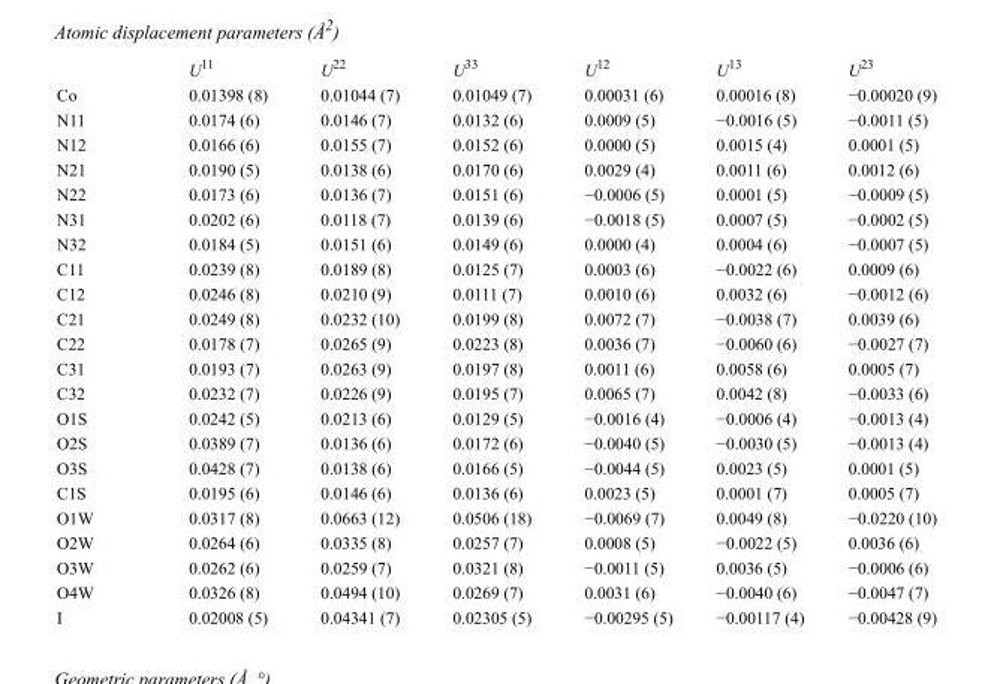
<table><thead><tr><td></td><td>U<sup>11</sup></td><td>U<sup>22</sup></td><td>U<sup>33</sup></td><td>U<sup>12</sup></td><td>U<sup>13</sup></td><td>U<sup>23</sup></td></tr></thead><tbody><tr><td>Co</td><td>0.01398 (8)</td><td>0.01044 (7)</td><td>0.01049 (7)</td><td>0.00031 (6)</td><td>0.00016 (8)</td><td>−0.00020 (9)</td></tr><tr><td>N11</td><td>0.0174 (6)</td><td>0.0146 (7)</td><td>0.0132 (6)</td><td>0.0009 (5)</td><td>−0.0016 (5)</td><td>−0.0011 (5)</td></tr><tr><td>N12</td><td>0.0166 (6)</td><td>0.0155 (7)</td><td>0.0152 (6)</td><td>0.0000 (5)</td><td>0.0015 (4)</td><td>0.0001 (5)</td></tr><tr><td>N21</td><td>0.0190 (5)</td><td>0.0138 (6)</td><td>0.0170 (6)</td><td>0.0029 (4)</td><td>0.0011 (6)</td><td>0.0012 (6)</td></tr><tr><td>N22</td><td>0.0173 (6)</td><td>0.0136 (7)</td><td>0.0151 (6)</td><td>−0.0006 (5)</td><td>0.0001 (5)</td><td>−0.0009 (5)</td></tr><tr><td>N31</td><td>0.0202 (6)</td><td>0.0118 (7)</td><td>0.0139 (6)</td><td>−0.0018 (5)</td><td>0.0007 (5)</td><td>−0.0002 (5)</td></tr><tr><td>N32</td><td>0.0184 (5)</td><td>0.0151 (6)</td><td>0.0149 (6)</td><td>0.0000 (4)</td><td>0.0004 (6)</td><td>−0.0007 (5)</td></tr><tr><td>C11</td><td>0.0239 (8)</td><td>0.0189 (8)</td><td>0.0125 (7)</td><td>0.0003 (6)</td><td>−0.0022 (6)</td><td>0.0009 (6)</td></tr><tr><td>C12</td><td>0.0246 (8)</td><td>0.0210 (9)</td><td>0.0111 (7)</td><td>0.0010 (6)</td><td>0.0032 (6)</td><td>−0.0012 (6)</td></tr><tr><td>C21</td><td>0.0249 (8)</td><td>0.0232 (10)</td><td>0.0199 (8)</td><td>0.0072 (7)</td><td>−0.0038 (7)</td><td>0.0039 (6)</td></tr><tr><td>C22</td><td>0.0178 (7)</td><td>0.0265 (9)</td><td>0.0223 (8)</td><td>0.0036 (7)</td><td>−0.0060 (6)</td><td>−0.0027 (7)</td></tr><tr><td>C31</td><td>0.0193 (7)</td><td>0.0263 (9)</td><td>0.0197 (8)</td><td>0.0011 (6)</td><td>0.0058 (6)</td><td>0.0005 (7)</td></tr><tr><td>C32</td><td>0.0232 (7)</td><td>0.0226 (9)</td><td>0.0195 (7)</td><td>0.0065 (7)</td><td>0.0042 (8)</td><td>−0.0033 (6)</td></tr><tr><td>O1S</td><td>0.0242 (5)</td><td>0.0213 (6)</td><td>0.0129 (5)</td><td>−0.0016 (4)</td><td>−0.0006 (4)</td><td>−0.0013 (4)</td></tr><tr><td>O2S</td><td>0.0389 (7)</td><td>0.0136 (6)</td><td>0.0172 (6)</td><td>−0.0040 (5)</td><td>−0.0030 (5)</td><td>−0.0013 (4)</td></tr><tr><td>O3S</td><td>0.0428 (7)</td><td>0.0138 (6)</td><td>0.0166 (5)</td><td>−0.0044 (5)</td><td>0.0023 (5)</td><td>0.0001 (5)</td></tr><tr><td>C1S</td><td>0.0195 (6)</td><td>0.0146 (6)</td><td>0.0136 (6)</td><td>0.0023 (5)</td><td>0.0001 (7)</td><td>0.0005 (7)</td></tr><tr><td>O1W</td><td>0.0317 (8)</td><td>0.0663 (12)</td><td>0.0506 (18)</td><td>−0.0069 (7)</td><td>0.0049 (8)</td><td>−0.0220 (10)</td></tr><tr><td>O2W</td><td>0.0264 (6)</td><td>0.0335 (8)</td><td>0.0257 (7)</td><td>0.0008 (5)</td><td>−0.0022 (5)</td><td>0.0036 (6)</td></tr><tr><td>O3W</td><td>0.0262 (6)</td><td>0.0259 (7)</td><td>0.0321 (8)</td><td>−0.0011 (5)</td><td>0.0036 (5)</td><td>−0.0006 (6)</td></tr><tr><td>O4W</td><td>0.0326 (8)</td><td>0.0494 (10)</td><td>0.0269 (7)</td><td>0.0031 (6)</td><td>−0.0040 (6)</td><td>−0.0047 (7)</td></tr><tr><td>I</td><td>0.02008 (5)</td><td>0.04341 (7)</td><td>0.02305 (5)</td><td>−0.00295 (5)</td><td>−0.00117 (4)</td><td>−0.00428 (9)</td></tr></tbody></table>